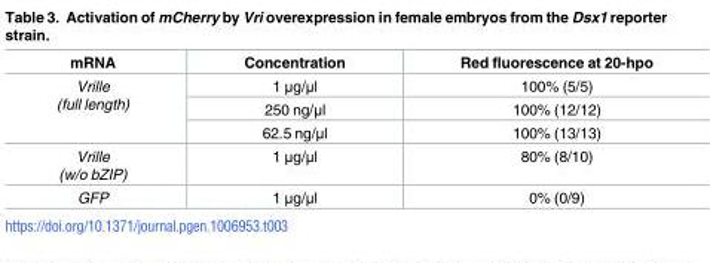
<table><thead><tr><td>mRNA</td><td>Concentration</td><td>Red fluorescence at 20-hpo</td></tr></thead><tbody><tr><td rowspan="3">Vrille (full length)</td><td>1 μg/μl</td><td>100% (5/5)</td></tr><tr><td>250 ng/μl</td><td>100% (12/12)</td></tr><tr><td>62.5 ng/μl</td><td>100% (13/13)</td></tr><tr><td>Vrille (w/o bZIP)</td><td>1 μg/μl</td><td>80% (8/10)</td></tr><tr><td>GFP</td><td>1 μg/μl</td><td>0% (0/9)</td></tr></tbody></table>